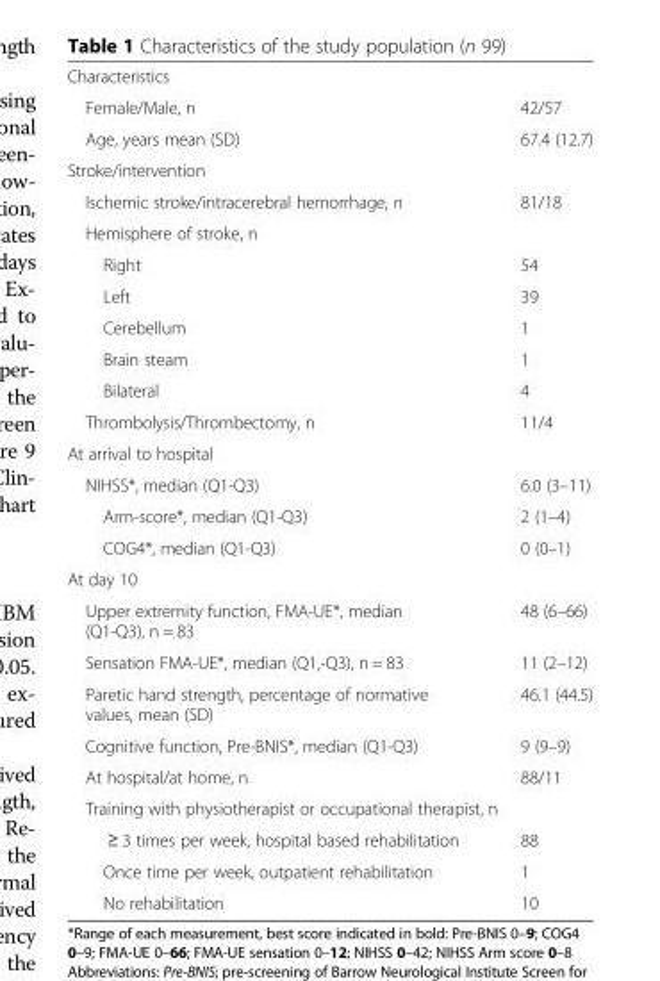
<table><tbody><tr><td colspan="2">Characteristics</td></tr><tr><td>Female/Male, n</td><td>42/57</td></tr><tr><td>Age, years mean (SD)</td><td>67.4 (12.7)</td></tr><tr><td colspan="2">Stroke/intervention</td></tr><tr><td>Ischemic stroke/intracerebral hemorrhage, n</td><td>81/18</td></tr><tr><td colspan="2">Hemisphere of stroke, n</td></tr><tr><td>Right</td><td>54</td></tr><tr><td>Left</td><td>39</td></tr><tr><td>Cerebellum</td><td>1</td></tr><tr><td>Brain steam</td><td>1</td></tr><tr><td>Bilateral</td><td>4</td></tr><tr><td>Thrombolysis/Thrombectomy, n</td><td>11/4</td></tr><tr><td colspan="2">At arrival to hospital</td></tr><tr><td>NIHSS*, median (Q1-Q3)</td><td>6.0 (3–11)</td></tr><tr><td>Arm-score*, median (Q1-Q3)</td><td>2 (1–4)</td></tr><tr><td>COG4*, median (Q1-Q3)</td><td>0 (0–1)</td></tr><tr><td colspan="2">At day 10</td></tr><tr><td>Upper extremity function, FMA-UE*, median (Q1-Q3), n = 83</td><td>48 (6–66)</td></tr><tr><td>Sensation FMA-UE*, median (Q1,-Q3), n = 83</td><td>11 (2–12)</td></tr><tr><td>Paretic hand strength, percentage of normative values, mean (SD)</td><td>46.1 (44.5)</td></tr><tr><td>Cognitive function, Pre-BNIS*, median (Q1-Q3)</td><td>9 (9–9)</td></tr><tr><td>At hospital/at home, n</td><td>88/11</td></tr><tr><td colspan="2">Training with physiotherapist or occupational therapist, n</td></tr><tr><td>≥ 3 times per week, hospital based rehabilitation</td><td>88</td></tr><tr><td>Once time per week, outpatient rehabilitation</td><td>1</td></tr><tr><td>No rehabilitation</td><td>10</td></tr></tbody></table>